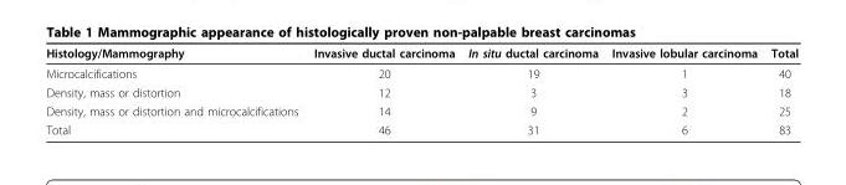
<table><thead><tr><td>Histology/Mammography</td><td>Invasive ductal carcinoma</td><td>In situ ductal carcinoma</td><td>Invasive lobular carcinoma</td><td>Total</td></tr></thead><tbody><tr><td>Microcalcifications</td><td>20</td><td>19</td><td>1</td><td>40</td></tr><tr><td>Density, mass or distortion</td><td>12</td><td>3</td><td>3</td><td>18</td></tr><tr><td>Density, mass or distortion and microcalcifications</td><td>14</td><td>9</td><td>2</td><td>25</td></tr><tr><td>Total</td><td>46</td><td>31</td><td>6</td><td>83</td></tr></tbody></table>